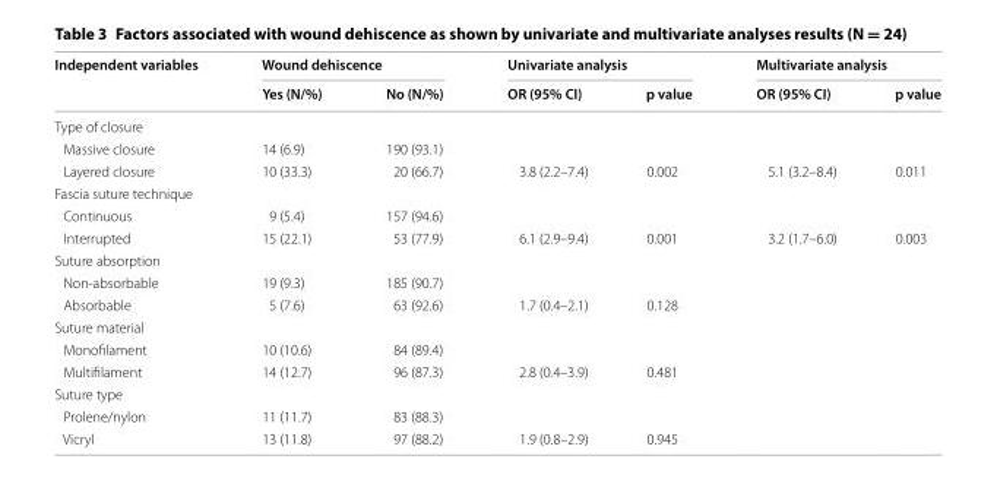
<table><thead><tr><td rowspan="2">Independent variables</td><td colspan="2">Wound dehiscence</td><td colspan="2">Univariate analysis</td><td colspan="2">Multivariate analysis</td></tr><tr><td>Yes (N/%)</td><td>No (N/%)</td><td>OR (95% CI)</td><td>p value</td><td>OR (95% CI)</td><td>p value</td></tr></thead><tbody><tr><td colspan="7">Type of closure</td></tr><tr><td>Massive closure</td><td>14 (6.9)</td><td>190 (93.1)</td><td></td><td></td><td></td><td></td></tr><tr><td>Layered closure</td><td>10 (33.3)</td><td>20 (66.7)</td><td>3.8 (2.2–7.4)</td><td>0.002</td><td>5.1 (3.2–8.4)</td><td>0.011</td></tr><tr><td colspan="7">Fascia suture technique</td></tr><tr><td>Continuous</td><td>9 (5.4)</td><td>157 (94.6)</td><td></td><td></td><td></td><td></td></tr><tr><td>Interrupted</td><td>15 (22.1)</td><td>53 (77.9)</td><td>6.1 (2.9–9.4)</td><td>0.001</td><td>3.2 (1.7–6.0)</td><td>0.003</td></tr><tr><td colspan="7">Suture absorption</td></tr><tr><td>Non-absorbable</td><td>19 (9.3)</td><td>185 (90.7)</td><td></td><td></td><td></td><td></td></tr><tr><td>Absorbable</td><td>5 (7.6)</td><td>63 (92.6)</td><td>1.7 (0.4–2.1)</td><td>0.128</td><td></td><td></td></tr><tr><td colspan="7">Suture material</td></tr><tr><td>Monofilament</td><td>10 (10.6)</td><td>84 (89.4)</td><td></td><td></td><td></td><td></td></tr><tr><td>Multifilament</td><td>14 (12.7)</td><td>96 (87.3)</td><td>2.8 (0.4–3.9)</td><td>0.481</td><td></td><td></td></tr><tr><td colspan="7">Suture type</td></tr><tr><td>Prolene/nylon</td><td>11 (11.7)</td><td>83 (88.3)</td><td></td><td></td><td></td><td></td></tr><tr><td>Vicryl</td><td>13 (11.8)</td><td>97 (88.2)</td><td>1.9 (0.8–2.9)</td><td>0.945</td><td></td><td></td></tr></tbody></table>